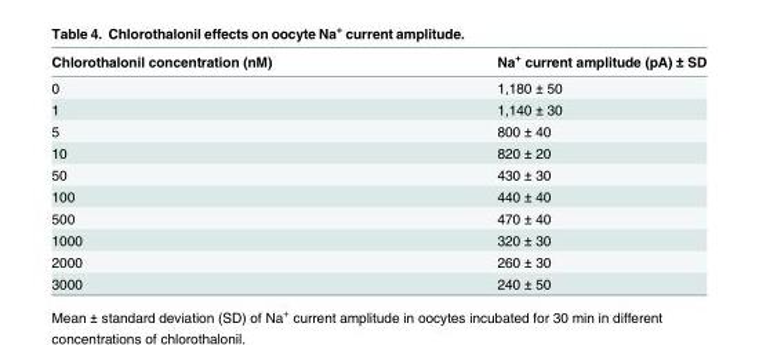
<table><thead><tr><td>Chlorothalonil concentration (nM)</td><td>Na<sup>+</sup> current amplitude (pA) ± SD</td></tr></thead><tbody><tr><td>0</td><td>1,180 ± 50</td></tr><tr><td>1</td><td>1,140 ± 30</td></tr><tr><td>5</td><td>800 ± 40</td></tr><tr><td>10</td><td>820 ± 20</td></tr><tr><td>50</td><td>430 ± 30</td></tr><tr><td>100</td><td>440 ± 40</td></tr><tr><td>500</td><td>470 ± 40</td></tr><tr><td>1000</td><td>320 ± 30</td></tr><tr><td>2000</td><td>260 ± 30</td></tr><tr><td>3000</td><td>240 ± 50</td></tr></tbody></table>